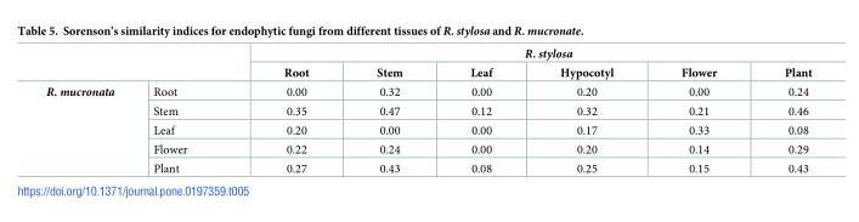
<table><thead><tr><td rowspan="2"></td><td rowspan="2"></td><td colspan="6">R. stylosa</td></tr><tr><td>Root</td><td>Stem</td><td>Leaf</td><td>Hypocotyl</td><td>Flower</td><td>Plant</td></tr></thead><tbody><tr><td rowspan="5">R. mucronata</td><td>Root</td><td>0.00</td><td>0.32</td><td>0.00</td><td>0.20</td><td>0.00</td><td>0.24</td></tr><tr><td>Stem</td><td>0.35</td><td>0.47</td><td>0.12</td><td>0.32</td><td>0.21</td><td>0.46</td></tr><tr><td>Leaf</td><td>0.20</td><td>0.00</td><td>0.00</td><td>0.17</td><td>0.33</td><td>0.08</td></tr><tr><td>Flower</td><td>0.22</td><td>0.24</td><td>0.00</td><td>0.20</td><td>0.14</td><td>0.29</td></tr><tr><td>Plant</td><td>0.27</td><td>0.43</td><td>0.08</td><td>0.25</td><td>0.15</td><td>0.43</td></tr></tbody></table>